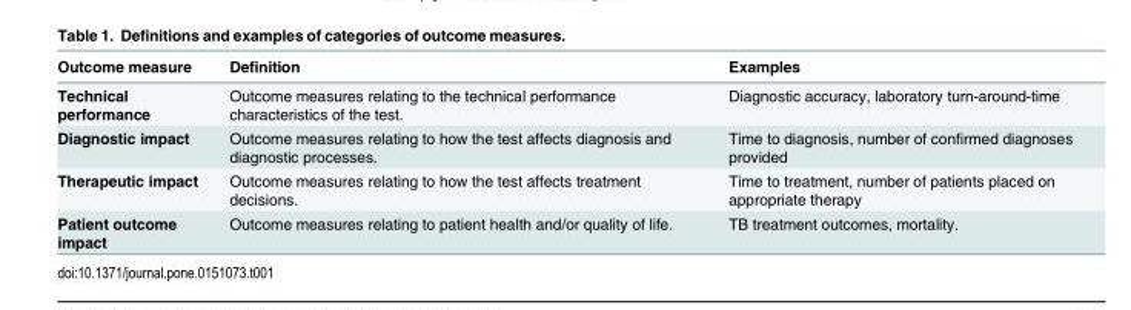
<table><thead><tr><td>Outcome measure</td><td>Definition</td><td>Examples</td></tr></thead><tbody><tr><td>Technical performance</td><td>Outcome measures relating to the technical performance characteristics of the test.</td><td>Diagnostic accuracy, laboratory turn-around-time</td></tr><tr><td>Diagnostic impact</td><td>Outcome measures relating to how the test affects diagnosis and diagnostic processes.</td><td>Time to diagnosis, number of confirmed diagnoses provided</td></tr><tr><td>Therapeutic impact</td><td>Outcome measures relating to how the test affects treatment decisions.</td><td>Time to treatment, number of patients placed on appropriate therapy</td></tr><tr><td>Patient outcome impact</td><td>Outcome measures relating to patient health and/or quality of life.</td><td>TB treatment outcomes, mortality.</td></tr></tbody></table>